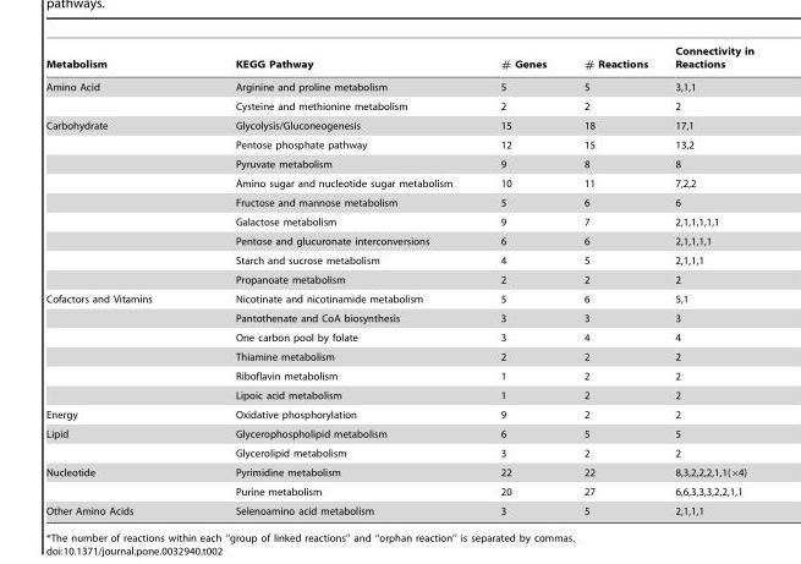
<table><thead><tr><td>Metabolism</td><td>KEGG Pathway</td><td># Genes</td><td># Reactions</td><td>Connectivity in Reactions</td></tr></thead><tbody><tr><td rowspan="2">Amino Acid</td><td>Arginine and proline metabolism</td><td>5</td><td>5</td><td>3,1,1</td></tr><tr><td>Cysteine and methionine metabolism</td><td>2</td><td>2</td><td>2</td></tr><tr><td rowspan="9">Carbohydrate</td><td>Glycolysis/Gluconeogenesis</td><td>15</td><td>18</td><td>17,1</td></tr><tr><td>Pentose phosphate pathway</td><td>12</td><td>15</td><td>13,2</td></tr><tr><td>Pyruvate metabolism</td><td>9</td><td>8</td><td>8</td></tr><tr><td>Amino sugar and nucleotide sugar metabolism</td><td>10</td><td>11</td><td>7,2,2</td></tr><tr><td>Fructose and mannose metabolism</td><td>5</td><td>6</td><td>6</td></tr><tr><td>Galactose metabolism</td><td>9</td><td>7</td><td>2,1,1,1,1,1</td></tr><tr><td>Pentose and glucuronate interconversions</td><td>6</td><td>6</td><td>2,1,1,1,1</td></tr><tr><td>Starch and sucrose metabolism</td><td>4</td><td>5</td><td>2,1,1,1</td></tr><tr><td>Propanoate metabolism</td><td>2</td><td>2</td><td>2</td></tr><tr><td rowspan="6">Cofactors and Vitamins</td><td>Nicotinate and nicotinamide metabolism</td><td>5</td><td>6</td><td>5,1</td></tr><tr><td>Pantothenate and CoA biosynthesis</td><td>3</td><td>3</td><td>3</td></tr><tr><td>One carbon pool by folate</td><td>3</td><td>4</td><td>4</td></tr><tr><td>Thiamine metabolism</td><td>2</td><td>2</td><td>2</td></tr><tr><td>Riboflavin metabolism</td><td>1</td><td>2</td><td>2</td></tr><tr><td>Lipoic acid metabolism</td><td>1</td><td>2</td><td>2</td></tr><tr><td>Energy</td><td>Oxidative phosphorylation</td><td>9</td><td>2</td><td>2</td></tr><tr><td rowspan="2">Lipid</td><td>Glycerophospholipid metabolism</td><td>6</td><td>5</td><td>5</td></tr><tr><td>Glycerolipid metabolism</td><td>3</td><td>2</td><td>2</td></tr><tr><td rowspan="2">Nucleotide</td><td>Pyrimidine metabolism</td><td>22</td><td>22</td><td>8,3,2,2,2,1,1(×4)</td></tr><tr><td>Purine metabolism</td><td>20</td><td>27</td><td>6,6,3,3,3,2,2,1,1</td></tr><tr><td>Other Amino Acids</td><td>Selenoamino acid metabolism</td><td>3</td><td>5</td><td>2,1,1,1</td></tr></tbody></table>